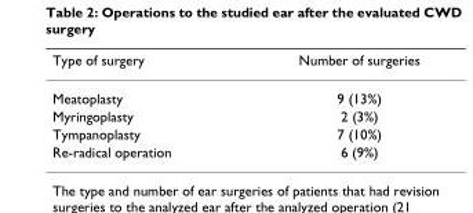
<table><thead><tr><td>Type of surgery</td><td>Number of surgeries</td></tr></thead><tbody><tr><td>Meatoplasty</td><td>9 (13%)</td></tr><tr><td>Myringoplasty</td><td>2 (3%)</td></tr><tr><td>Tympanoplasty</td><td>7 (10%)</td></tr><tr><td>Re-radical operation</td><td>6 (9%)</td></tr></tbody></table>